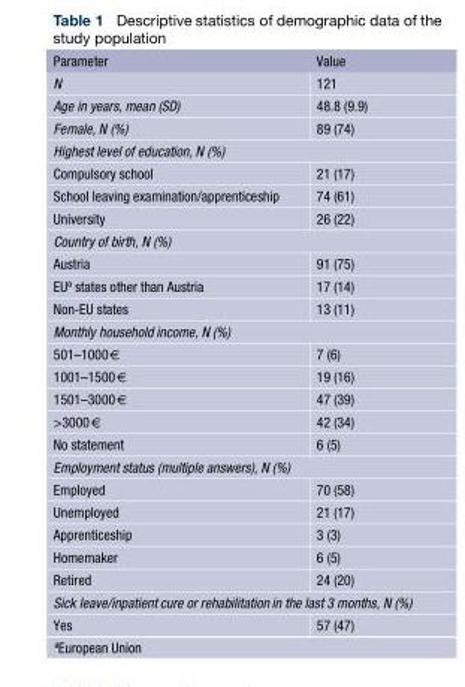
<table><thead><tr><td>Parameter</td><td>Value</td></tr></thead><tbody><tr><td>N</td><td>121</td></tr><tr><td>Age in years, mean (SD)</td><td>48.8 (9.9)</td></tr><tr><td>Female, N (%)</td><td>89 (74)</td></tr><tr><td colspan="2">Highest level of education, N (%)</td></tr><tr><td>Compulsory school</td><td>21 (17)</td></tr><tr><td>School leaving examination/apprenticeship</td><td>74 (61)</td></tr><tr><td>University</td><td>26 (22)</td></tr><tr><td colspan="2">Country of birth, N (%)</td></tr><tr><td>Austria</td><td>91 (75)</td></tr><tr><td>EUª states other than Austria</td><td>17 (14)</td></tr><tr><td>Non-EU states</td><td>13 (11)</td></tr><tr><td colspan="2">Monthly household income, N (%)</td></tr><tr><td>501–1000€</td><td>7 (6)</td></tr><tr><td>1001–1500€</td><td>19 (16)</td></tr><tr><td>1501–3000€</td><td>47 (39)</td></tr><tr><td>&gt;3000€</td><td>42 (34)</td></tr><tr><td>No statement</td><td>6 (5)</td></tr><tr><td colspan="2">Employment status (multiple answers), N (%)</td></tr><tr><td>Employed</td><td>70 (58)</td></tr><tr><td>Unemployed</td><td>21 (17)</td></tr><tr><td>Apprenticeship</td><td>3 (3)</td></tr><tr><td>Homemaker</td><td>6 (5)</td></tr><tr><td>Retired</td><td>24 (20)</td></tr><tr><td colspan="2">Sick leave/inpatient cure or rehabilitation in the last 3 months, N (%)</td></tr><tr><td>Yes</td><td>57 (47)</td></tr></tbody></table>